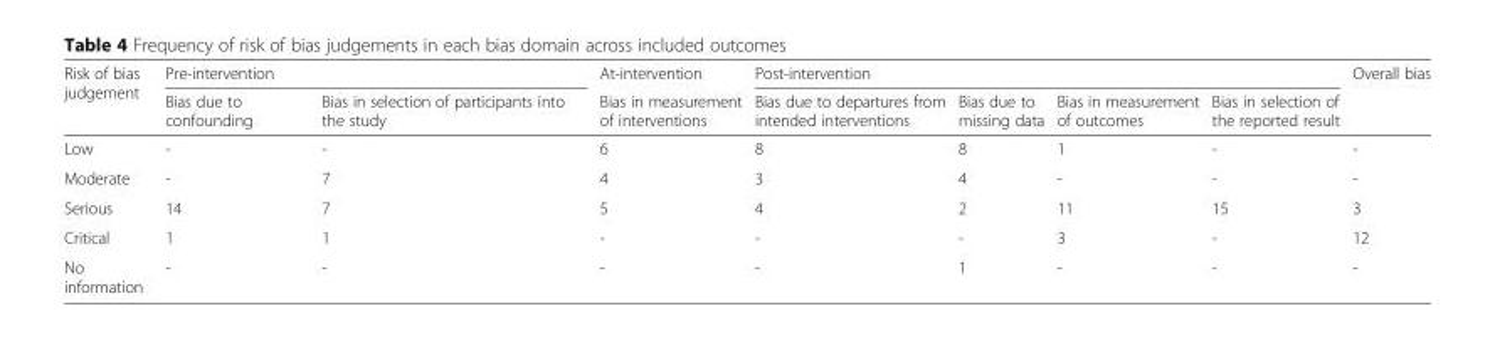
<table><thead><tr><td rowspan="2">Risk of bias judgement</td><td colspan="2">Pre-intervention</td><td rowspan="2">At-intervention Bias in measurement of interventions</td><td colspan="4">Post-intervention</td><td rowspan="2">Overall bias</td></tr><tr><td>Bias due to confounding</td><td>Bias in selection of participants into the study</td><td>Bias due to departures from intended interventions</td><td>Bias due to missing data</td><td>Bias in measurement of outcomes</td><td>Bias in selection of the reported result</td></tr></thead><tbody><tr><td>Low</td><td>-</td><td>-</td><td>6</td><td>8</td><td>8</td><td>1</td><td>-</td><td>-</td></tr><tr><td>Moderate</td><td>-</td><td>7</td><td>4</td><td>3</td><td>4</td><td>-</td><td>-</td><td>-</td></tr><tr><td>Serious</td><td>14</td><td>7</td><td>5</td><td>4</td><td>2</td><td>11</td><td>15</td><td>3</td></tr><tr><td>Critical</td><td>1</td><td>1</td><td>-</td><td>-</td><td>-</td><td>3</td><td>-</td><td>12</td></tr><tr><td>No information</td><td>-</td><td>-</td><td>-</td><td>-</td><td>1</td><td>-</td><td>-</td><td>-</td></tr></tbody></table>